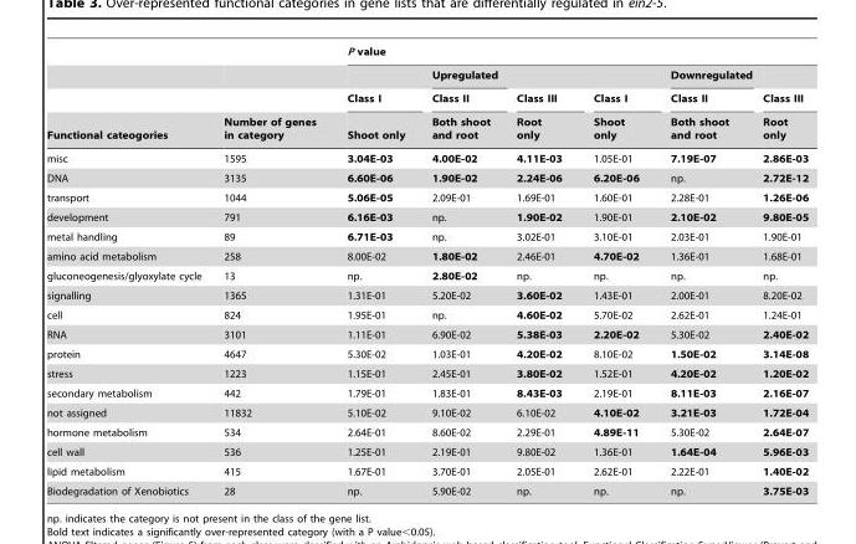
<table><thead><tr><td rowspan="4">Functional cateogories</td><td rowspan="4">Number of genes in category</td><td colspan="6">P value</td></tr><tr><td rowspan="3">Class I Shoot only</td><td rowspan="3">Upregulated Class II Both shoot and root</td><td rowspan="3">Class III Root only</td><td rowspan="3">Class I Shoot only</td><td rowspan="3">Downregulated Class II Both shoot and root</td><td rowspan="3">Class III Root only</td></tr><tr></tr><tr></tr></thead><tbody><tr><td>misc</td><td>1595</td><td>3.04E-03</td><td>4.00E-02</td><td>4.11E-03</td><td>1.05E-01</td><td>7.19E-07</td><td>2.86E-03</td></tr><tr><td>DNA</td><td>3135</td><td>6.60E-06</td><td>1.90E-02</td><td>2.24E-06</td><td>6.20E-06</td><td>np.</td><td>2.72E-12</td></tr><tr><td>transport</td><td>1044</td><td>5.06E-05</td><td>2.09E-01</td><td>1.69E-01</td><td>1.60E-01</td><td>2.28E-01</td><td>1.26E-06</td></tr><tr><td>development</td><td>791</td><td>6.16E-03</td><td>np.</td><td>1.90E-02</td><td>1.90E-01</td><td>2.10E-02</td><td>9.80E-05</td></tr><tr><td>metal handling</td><td>89</td><td>6.71E-03</td><td>np.</td><td>3.02E-01</td><td>3.10E-01</td><td>2.03E-01</td><td>1.90E-01</td></tr><tr><td>amino acid metabolism</td><td>258</td><td>8.00E-02</td><td>1.80E-02</td><td>2.46E-01</td><td>4.70E-02</td><td>1.36E-01</td><td>1.68E-01</td></tr><tr><td>gluconeogenesis/glyoxylate cycle</td><td>13</td><td>np.</td><td>2.80E-02</td><td>np.</td><td>np.</td><td>np.</td><td>np.</td></tr><tr><td>signalling</td><td>1365</td><td>1.31E-01</td><td>5.20E-02</td><td>3.60E-02</td><td>1.43E-01</td><td>2.00E-01</td><td>8.20E-02</td></tr><tr><td>cell</td><td>824</td><td>1.95E-01</td><td>np.</td><td>4.60E-02</td><td>5.70E-02</td><td>2.62E-01</td><td>1.24E-01</td></tr><tr><td>RNA</td><td>3101</td><td>1.11E-01</td><td>6.90E-02</td><td>5.38E-03</td><td>2.20E-02</td><td>5.30E-02</td><td>2.40E-02</td></tr><tr><td>protein</td><td>4647</td><td>5.30E-02</td><td>1.03E-01</td><td>4.20E-02</td><td>8.10E-02</td><td>1.50E-02</td><td>3.14E-08</td></tr><tr><td>stress</td><td>1223</td><td>1.15E-01</td><td>2.45E-01</td><td>3.80E-02</td><td>1.52E-01</td><td>4.20E-02</td><td>1.20E-02</td></tr><tr><td>secondary metabolism</td><td>442</td><td>1.79E-01</td><td>1.83E-01</td><td>8.43E-03</td><td>2.19E-01</td><td>8.11E-03</td><td>2.16E-07</td></tr><tr><td>not assigned</td><td>11832</td><td>5.10E-02</td><td>9.10E-02</td><td>6.10E-02</td><td>4.10E-02</td><td>3.21E-03</td><td>1.72E-04</td></tr><tr><td>hormone metabolism</td><td>534</td><td>2.64E-01</td><td>8.60E-02</td><td>2.29E-01</td><td>4.89E-11</td><td>5.30E-02</td><td>2.64E-07</td></tr><tr><td>cell wall</td><td>536</td><td>1.25E-01</td><td>2.19E-01</td><td>9.80E-02</td><td>1.36E-01</td><td>1.64E-04</td><td>5.96E-03</td></tr><tr><td>lipid metabolism</td><td>415</td><td>1.67E-01</td><td>3.70E-01</td><td>2.05E-01</td><td>2.62E-01</td><td>2.22E-01</td><td>1.40E-02</td></tr><tr><td>Biodegradation of Xenobiotics</td><td>28</td><td>np.</td><td>5.90E-02</td><td>np.</td><td>np.</td><td>np.</td><td>3.75E-03</td></tr></tbody></table>